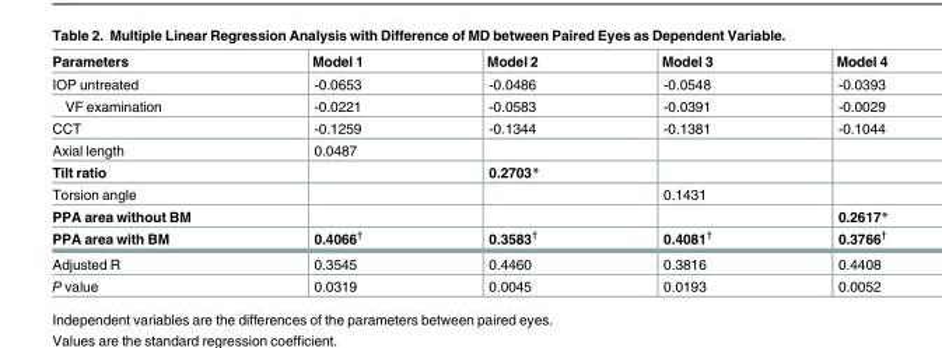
<table><thead><tr><td>Parameters</td><td>Model 1</td><td>Model 2</td><td>Model 3</td><td>Model 4</td></tr></thead><tbody><tr><td>IOP untreated</td><td>-0.0653</td><td>-0.0486</td><td>-0.0548</td><td>-0.0393</td></tr><tr><td>VF examination</td><td>-0.0221</td><td>-0.0583</td><td>-0.0391</td><td>-0.0029</td></tr><tr><td>CCT</td><td>-0.1259</td><td>-0.1344</td><td>-0.1381</td><td>-0.1044</td></tr><tr><td>Axial length</td><td>0.0487</td><td></td><td></td><td></td></tr><tr><td>Tilt ratio</td><td></td><td>0.2703*</td><td></td><td></td></tr><tr><td>Torsion angle</td><td></td><td></td><td>0.1431</td><td></td></tr><tr><td>PPA area without BM</td><td></td><td></td><td></td><td>0.2617*</td></tr><tr><td>PPA area with BM</td><td>0.4066<sup>†</sup></td><td>0.3583<sup>†</sup></td><td>0.4081<sup>†</sup></td><td>0.3766<sup>†</sup></td></tr><tr><td>Adjusted R</td><td>0.3545</td><td>0.4460</td><td>0.3816</td><td>0.4408</td></tr><tr><td>P value</td><td>0.0319</td><td>0.0045</td><td>0.0193</td><td>0.0052</td></tr></tbody></table>